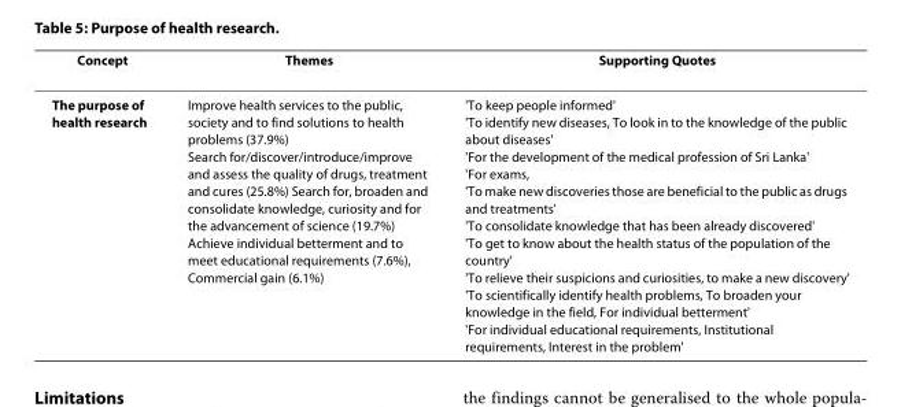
<table><thead><tr><td>Concept</td><td>Themes</td><td>Supporting Quotes</td></tr></thead><tbody><tr><td>The purpose of health research</td><td>Improve health services to the public, society and to find solutions to health problems (37.9%) Search for/discover/introduce/improve and assess the quality of drugs, treatment and cures (25.8%) Search for, broaden and consolidate knowledge, curiosity and for the advancement of science (19.7%) Achieve individual betterment and to meet educational requirements (7.6%), Commercial gain (6.1%)</td><td>&#x27;To keep people informed&#x27; &#x27;To identify new diseases, To look in to the knowledge of the public about diseases&#x27; &#x27;For the development of the medical profession of Sri Lanka&#x27; &#x27;For exams, &#x27;To make new discoveries those are beneficial to the public as drugs and treatments&#x27; &#x27;To consolidate knowledge that has been already discovered&#x27; &#x27;To get to know about the health status of the population of the country&#x27; &#x27;To relieve their suspicions and curiosities, to make a new discovery&#x27; &#x27;To scientifically identify health problems, To broaden your knowledge in the field, For individual betterment&#x27; &#x27;For individual educational requirements, Institutional requirements, Interest in the problem&#x27;</td></tr></tbody></table>